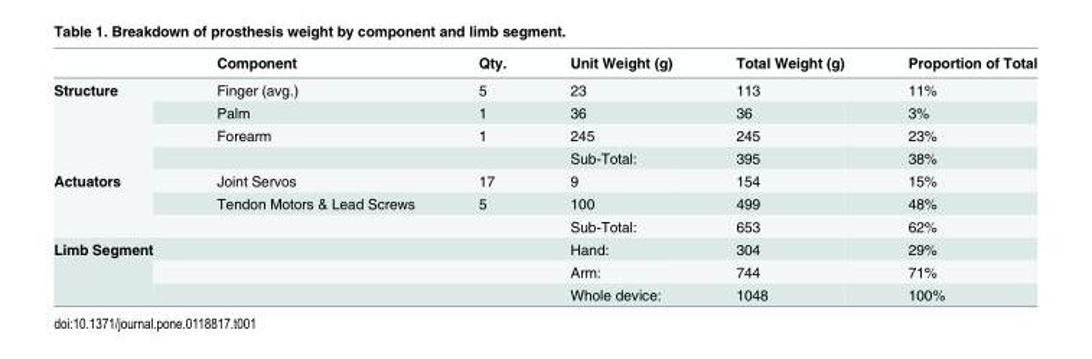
<table><thead><tr><td></td><td>Component</td><td>Qty.</td><td>Unit Weight (g)</td><td>Total Weight (g)</td><td>Proportion of Total</td></tr></thead><tbody><tr><td rowspan="4">Structure</td><td>Finger (avg.)</td><td>5</td><td>23</td><td>113</td><td>11%</td></tr><tr><td>Palm</td><td>1</td><td>36</td><td>36</td><td>3%</td></tr><tr><td>Forearm</td><td>1</td><td>245</td><td>245</td><td>23%</td></tr><tr><td colspan="2"></td><td>Sub-Total:</td><td>395</td><td>38%</td></tr><tr><td rowspan="3">Actuators</td><td>Joint Servos</td><td>17</td><td>9</td><td>154</td><td>15%</td></tr><tr><td>Tendon Motors &amp; Lead Screws</td><td>5</td><td>100</td><td>499</td><td>48%</td></tr><tr><td colspan="2"></td><td>Sub-Total:</td><td>653</td><td>62%</td></tr><tr><td rowspan="3">Limb Segment</td><td colspan="2"></td><td>Hand:</td><td>304</td><td>29%</td></tr><tr><td colspan="2"></td><td>Arm:</td><td>744</td><td>71%</td></tr><tr><td colspan="2"></td><td>Whole device:</td><td>1048</td><td>100%</td></tr></tbody></table>